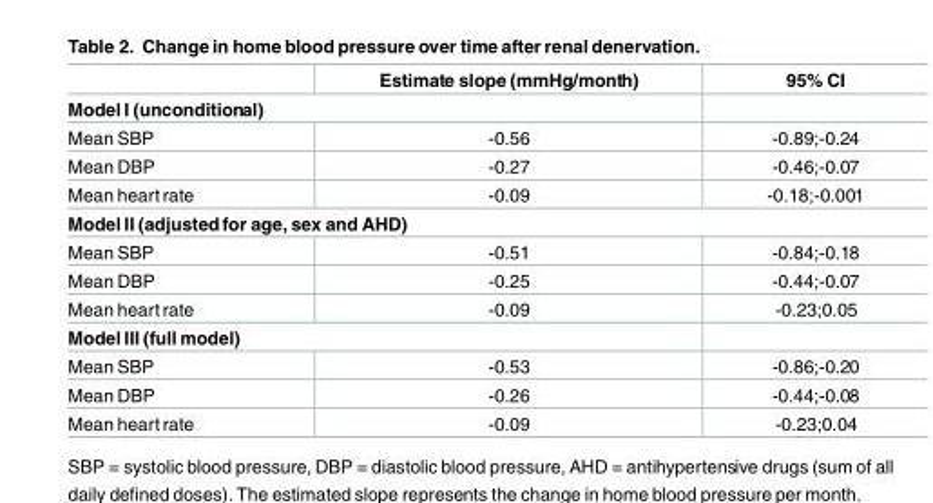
<table><thead><tr><td></td><td>Estimate slope (mmHg/month)</td><td>95% CI</td></tr></thead><tbody><tr><td colspan="3">Model I (unconditional)</td></tr><tr><td>Mean SBP</td><td>-0.56</td><td>-0.89;-0.24</td></tr><tr><td>Mean DBP</td><td>-0.27</td><td>-0.46;-0.07</td></tr><tr><td>Mean heart rate</td><td>-0.09</td><td>-0.18;-0.001</td></tr><tr><td colspan="3">Model II (adjusted for age, sex and AHD)</td></tr><tr><td>Mean SBP</td><td>-0.51</td><td>-0.84;-0.18</td></tr><tr><td>Mean DBP</td><td>-0.25</td><td>-0.44;-0.07</td></tr><tr><td>Mean heart rate</td><td>-0.09</td><td>-0.23;0.05</td></tr><tr><td colspan="3">Model III (full model)</td></tr><tr><td>Mean SBP</td><td>-0.53</td><td>-0.86;-0.20</td></tr><tr><td>Mean DBP</td><td>-0.26</td><td>-0.44;-0.08</td></tr><tr><td>Mean heart rate</td><td>-0.09</td><td>-0.23;0.04</td></tr></tbody></table>